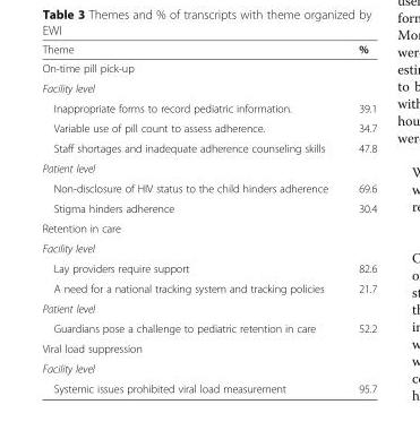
<table><thead><tr><td>Theme</td><td>%</td></tr></thead><tbody><tr><td colspan="2">On-time pill pick-up</td></tr><tr><td colspan="2">Facility level</td></tr><tr><td>Inappropriate forms to record pediatric information.</td><td>39.1</td></tr><tr><td>Variable use of pill count to assess adherence.</td><td>34.7</td></tr><tr><td>Staff shortages and inadequate adherence counseling skills</td><td>47.8</td></tr><tr><td colspan="2">Patient level</td></tr><tr><td>Non-disclosure of HIV status to the child hinders adherence</td><td>69.6</td></tr><tr><td>Stigma hinders adherence</td><td>30.4</td></tr><tr><td colspan="2">Retention in care</td></tr><tr><td colspan="2">Facility level</td></tr><tr><td>Lay providers require support</td><td>82.6</td></tr><tr><td>A need for a national tracking system and tracking policies</td><td>21.7</td></tr><tr><td colspan="2">Patient level</td></tr><tr><td>Guardians pose a challenge to pediatric retention in care</td><td>52.2</td></tr><tr><td colspan="2">Viral load suppression</td></tr><tr><td colspan="2">Facility level</td></tr><tr><td>Systemic issues prohibited viral load measurement</td><td>95.7</td></tr></tbody></table>